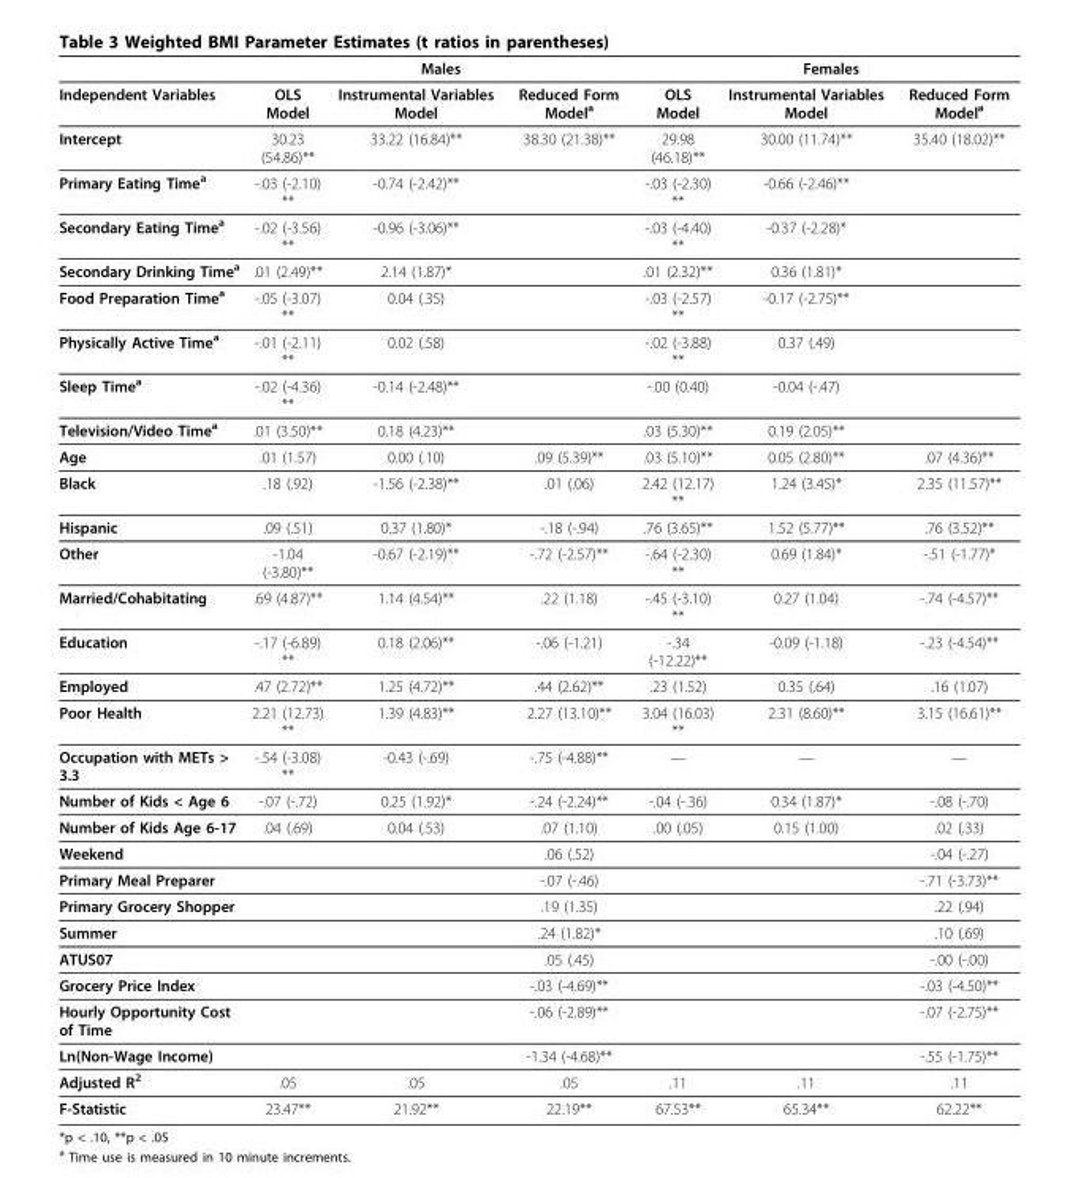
<table><thead><tr><td rowspan="2">Independent Variables</td><td colspan="3">Males</td><td colspan="3">Females</td></tr><tr><td>OLS Model</td><td>Instrumental Variables Model</td><td>Reduced Form Model<sup>a</sup></td><td>OLS Model</td><td>Instrumental Variables Model</td><td>Reduced Form Model<sup>a</sup></td></tr></thead><tbody><tr><td>Intercept</td><td>30.23 (54.86)**</td><td>33.22 (16.84)**</td><td>38.30 (21.38)**</td><td>29.98 (46.18)**</td><td>30.00 (11.74)**</td><td>35.40 (18.02)**</td></tr><tr><td>Primary Eating Time<sup>a</sup></td><td>-.03 (-2.10) **</td><td>-0.74 (-2.42)**</td><td></td><td>-.03 (-2.30) **</td><td>-0.66 (-2.46)**</td><td></td></tr><tr><td>Secondary Eating Time<sup>a</sup></td><td>-.02 (-3.56) **</td><td>-0.96 (-3.06)**</td><td></td><td>-.03 (-4.40) **</td><td>-0.37 (-2.28)*</td><td></td></tr><tr><td>Secondary Drinking Time<sup>a</sup></td><td>.01 (2.49)**</td><td>2.14 (1.87)*</td><td></td><td>.01 (2.32)**</td><td>0.36 (1.81)*</td><td></td></tr><tr><td>Food Preparation Time<sup>a</sup></td><td>-.05 (-3.07) **</td><td>0.04 (.35)</td><td></td><td>-.03 (-2.57) **</td><td>-0.17 (-2.75)**</td><td></td></tr><tr><td>Physically Active Time<sup>a</sup></td><td>-.01 (-2.11) **</td><td>0.02 (.58)</td><td></td><td>-.02 (-3.88) **</td><td>0.37 (.49)</td><td></td></tr><tr><td>Sleep Time<sup>a</sup></td><td>-.02 (-4.36) **</td><td>-0.14 (-2.48)**</td><td></td><td>-.00 (0.40)</td><td>-0.04 (-.47)</td><td></td></tr><tr><td>Television/Video Time<sup>a</sup></td><td>.01 (3.50)**</td><td>0.18 (4.23)**</td><td></td><td>.03 (5.30)**</td><td>0.19 (2.05)**</td><td></td></tr><tr><td>Age</td><td>.01 (1.57)</td><td>0.00 (.10)</td><td>.09 (5.39)**</td><td>.03 (5.10)**</td><td>0.05 (2.80)**</td><td>.07 (4.36)**</td></tr><tr><td>Black</td><td>.18 (.92)</td><td>-1.56 (-2.38)**</td><td>.01 (.06)</td><td>2.42 (12.17) **</td><td>1.24 (3.45)*</td><td>2.35 (11.57)**</td></tr><tr><td>Hispanic</td><td>.09 (.51)</td><td>0.37 (1.80)*</td><td>-.18 (-.94)</td><td>.76 (3.65)**</td><td>1.52 (5.77)**</td><td>.76 (3.52)**</td></tr><tr><td>Other</td><td>-1.04 (-3.80)**</td><td>-0.67 (-2.19)**</td><td>-.72 (-2.57)**</td><td>-.64 (-2.30) **</td><td>0.69 (1.84)*</td><td>-.51 (-1.77)*</td></tr><tr><td>Married/Cohabitating</td><td>.69 (4.87)**</td><td>1.14 (4.54)**</td><td>.22 (1.18)</td><td>-.45 (-3.10) **</td><td>0.27 (1.04)</td><td>-.74 (-4.57)**</td></tr><tr><td>Education</td><td>-.17 (-6.89) **</td><td>0.18 (2.06)**</td><td>-.06 (-1.21)</td><td>-.34 (-12.22)**</td><td>-0.09 (-1.18)</td><td>-.23 (-4.54)**</td></tr><tr><td>Employed</td><td>.47 (2.72)**</td><td>1.25 (4.72)**</td><td>.44 (2.62)**</td><td>.23 (1.52)</td><td>0.35 (.64)</td><td>.16 (1.07)</td></tr><tr><td>Poor Health</td><td>2.21 (12.73) **</td><td>1.39 (4.83)**</td><td>2.27 (13.10)**</td><td>3.04 (16.03) **</td><td>2.31 (8.60)**</td><td>3.15 (16.61)**</td></tr><tr><td>Occupation with METs &gt; 3.3</td><td>-.54 (-3.08) **</td><td>-0.43 (-.69)</td><td>-.75 (-4.88)**</td><td>—</td><td>—</td><td>—</td></tr><tr><td>Number of Kids &lt; Age 6</td><td>-.07 (-.72)</td><td>0.25 (1.92)*</td><td>-.24 (-2.24)**</td><td>-.04 (-.36)</td><td>0.34 (1.87)*</td><td>-.08 (-.70)</td></tr><tr><td>Number of Kids Age 6-17</td><td>.04 (.69)</td><td>0.04 (.53)</td><td>.07 (1.10)</td><td>.00 (.05)</td><td>0.15 (1.00)</td><td>.02 (.33)</td></tr><tr><td>Weekend</td><td></td><td></td><td>.06 (.52)</td><td></td><td></td><td>-.04 (-.27)</td></tr><tr><td>Primary Meal Preparer</td><td></td><td></td><td>-.07 (-.46)</td><td></td><td></td><td>-.71 (-3.73)**</td></tr><tr><td>Primary Grocery Shopper</td><td></td><td></td><td>.19 (1.35)</td><td></td><td></td><td>.22 (.94)</td></tr><tr><td>Summer</td><td></td><td></td><td>.24 (1.82)*</td><td></td><td></td><td>.10 (.69)</td></tr><tr><td>ATUS07</td><td></td><td></td><td>.05 (.45)</td><td></td><td></td><td>-.00 (-.00)</td></tr><tr><td>Grocery Price Index</td><td></td><td></td><td>-.03 (-4.69)**</td><td></td><td></td><td>-.03 (-4.50)**</td></tr><tr><td>Hourly Opportunity Cost of Time</td><td></td><td></td><td>-.06 (-2.89)**</td><td></td><td></td><td>-.07 (-2.75)**</td></tr><tr><td>Ln(Non-Wage Income)</td><td></td><td></td><td>-1.34 (-4.68)**</td><td></td><td></td><td>-.55 (-1.75)**</td></tr><tr><td>Adjusted R2</td><td>.05</td><td>.05</td><td>.05</td><td>.11</td><td>.11</td><td>.11</td></tr><tr><td>F-Statistic</td><td>23.47**</td><td>21.92**</td><td>22.19**</td><td>67.53**</td><td>65.34**</td><td>62.22**</td></tr></tbody></table>